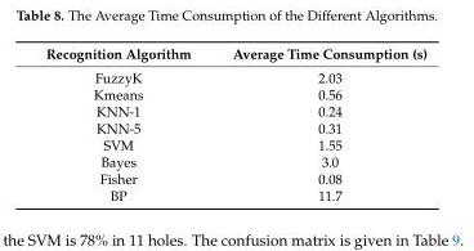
<table><thead><tr><td>Recognition Algorithm</td><td>Average Time Consumption (s)</td></tr></thead><tbody><tr><td>FuzzyK</td><td>2.03</td></tr><tr><td>Kmeans</td><td>0.56</td></tr><tr><td>KNN-1</td><td>0.24</td></tr><tr><td>KNN-5</td><td>0.31</td></tr><tr><td>SVM</td><td>1.55</td></tr><tr><td>Bayes</td><td>3.0</td></tr><tr><td>Fisher</td><td>0.08</td></tr><tr><td>BP</td><td>11.7</td></tr></tbody></table>